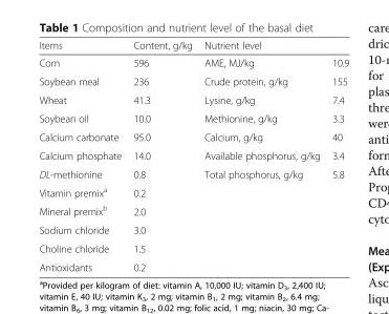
<table><thead><tr><td>Items</td><td>Content, g/kg</td><td>Nutrient level</td><td></td></tr></thead><tbody><tr><td>Corn</td><td>596</td><td>AME, MJ/kg</td><td>10.9</td></tr><tr><td>Soybean meal</td><td>236</td><td>Crude protein, g/kg</td><td>155</td></tr><tr><td>Wheat</td><td>41.3</td><td>Lysine, g/kg</td><td>7.4</td></tr><tr><td>Soybean oil</td><td>10.0</td><td>Methionine, g/kg</td><td>3.3</td></tr><tr><td>Calcium carbonate</td><td>95.0</td><td>Calcium, g/kg</td><td>40</td></tr><tr><td>Calcium phosphate</td><td>14.0</td><td>Available phosphorus, g/kg</td><td>3.4</td></tr><tr><td>DL-methionine</td><td>0.8</td><td>Total phosphorus, g/kg</td><td>5.8</td></tr><tr><td>Vitamin premix<sup>a</sup></td><td>0.2</td><td></td><td></td></tr><tr><td>Mineral premix<sup>b</sup></td><td>2.0</td><td></td><td></td></tr><tr><td>Sodium chloride</td><td>3.0</td><td></td><td></td></tr><tr><td>Choline chloride</td><td>1.5</td><td></td><td></td></tr><tr><td>Antioxidants</td><td>0.2</td><td></td><td></td></tr></tbody></table>